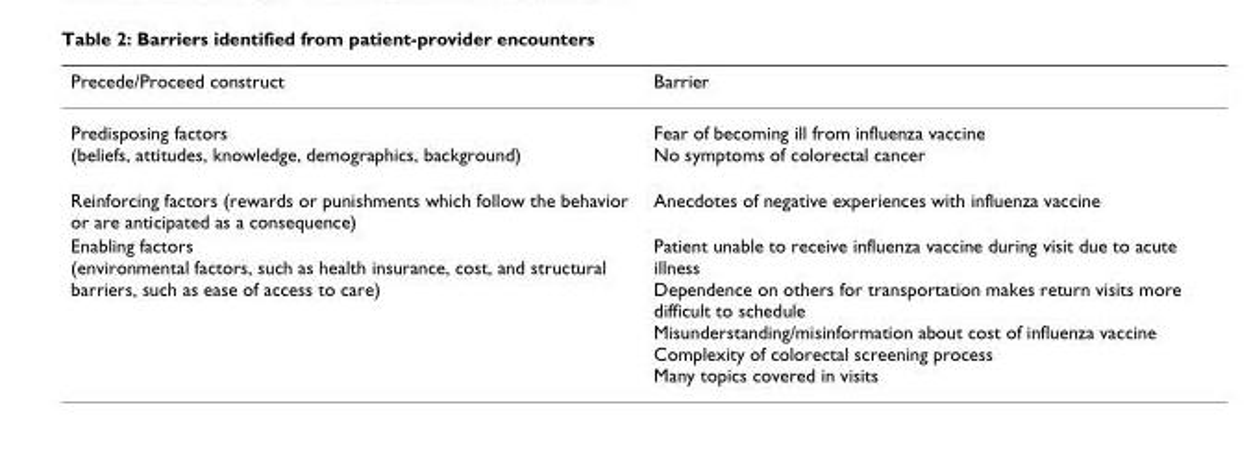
<table><thead><tr><td>Precede/Proceed construct</td><td>Barrier</td></tr></thead><tbody><tr><td>Predisposing factors (beliefs, attitudes, knowledge, demographics, background)</td><td>Fear of becoming ill from influenza vaccine No symptoms of colorectal cancer</td></tr><tr><td>Reinforcing factors (rewards or punishments which follow the behavior or are anticipated as a consequence)</td><td>Anecdotes of negative experiences with influenza vaccine</td></tr><tr><td>Enabling factors (environmental factors, such as health insurance, cost, and structural barriers, such as ease of access to care)</td><td>Patient unable to receive influenza vaccine during visit due to acute illness Dependence on others for transportation makes return visits more difficult to schedule Misunderstanding/misinformation about cost of influenza vaccine Complexity of colorectal screening process Many topics covered in visits</td></tr></tbody></table>